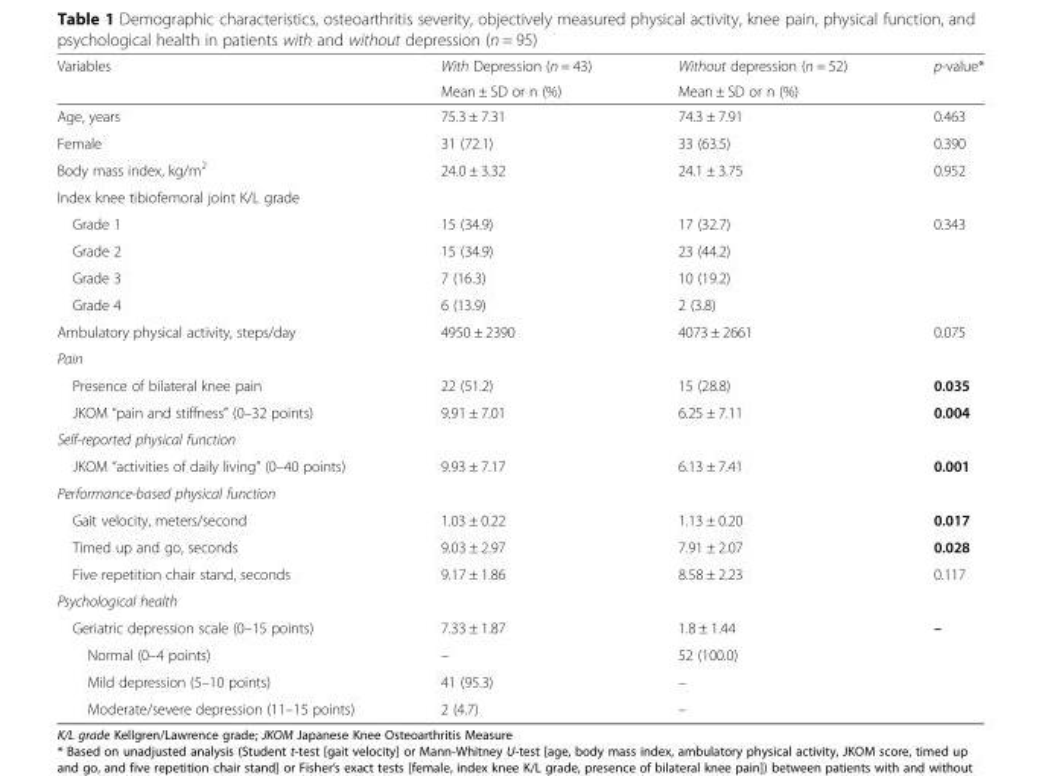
<table><thead><tr><td rowspan="2">Variables</td><td rowspan="2">With Depression (n = 43) Mean ± SD or n (%)</td><td rowspan="2">Without depression (n = 52) Mean ± SD or n (%)</td><td rowspan="2">p-value*</td></tr><tr></tr></thead><tbody><tr><td>Age, years</td><td>75.3 ± 7.31</td><td>74.3 ± 7.91</td><td>0.463</td></tr><tr><td>Female</td><td>31 (72.1)</td><td>33 (63.5)</td><td>0.390</td></tr><tr><td>Body mass index, kg/m<sup>2</sup></td><td>24.0 ± 3.32</td><td>24.1 ± 3.75</td><td>0.952</td></tr><tr><td colspan="4">Index knee tibiofemoral joint K/L grade</td></tr><tr><td>Grade 1</td><td>15 (34.9)</td><td>17 (32.7)</td><td>0.343</td></tr><tr><td>Grade 2</td><td>15 (34.9)</td><td>23 (44.2)</td><td></td></tr><tr><td>Grade 3</td><td>7 (16.3)</td><td>10 (19.2)</td><td></td></tr><tr><td>Grade 4</td><td>6 (13.9)</td><td>2 (3.8)</td><td></td></tr><tr><td>Ambulatory physical activity, steps/day</td><td>4950 ± 2390</td><td>4073 ± 2661</td><td>0.075</td></tr><tr><td colspan="4">Pain</td></tr><tr><td>Presence of bilateral knee pain</td><td>22 (51.2)</td><td>15 (28.8)</td><td>0.035</td></tr><tr><td>JKOM “pain and stiffness” (0–32 points)</td><td>9.91 ± 7.01</td><td>6.25 ± 7.11</td><td>0.004</td></tr><tr><td colspan="4">Self-reported physical function</td></tr><tr><td>JKOM “activities of daily living” (0–40 points)</td><td>9.93 ± 7.17</td><td>6.13 ± 7.41</td><td>0.001</td></tr><tr><td colspan="4">Performance-based physical function</td></tr><tr><td>Gait velocity, meters/second</td><td>1.03 ± 0.22</td><td>1.13 ± 0.20</td><td>0.017</td></tr><tr><td>Timed up and go, seconds</td><td>9.03 ± 2.97</td><td>7.91 ± 2.07</td><td>0.028</td></tr><tr><td>Five repetition chair stand, seconds</td><td>9.17 ± 1.86</td><td>8.58 ± 2.23</td><td>0.117</td></tr><tr><td colspan="4">Psychological health</td></tr><tr><td>Geriatric depression scale (0–15 points)</td><td>7.33 ± 1.87</td><td>1.8 ± 1.44</td><td>–</td></tr><tr><td>Normal (0–4 points)</td><td>–</td><td>52 (100.0)</td><td></td></tr><tr><td>Mild depression (5–10 points)</td><td>41 (95.3)</td><td>–</td><td></td></tr><tr><td>Moderate/severe depression (11–15 points)</td><td>2 (4.7)</td><td>–</td><td></td></tr></tbody></table>